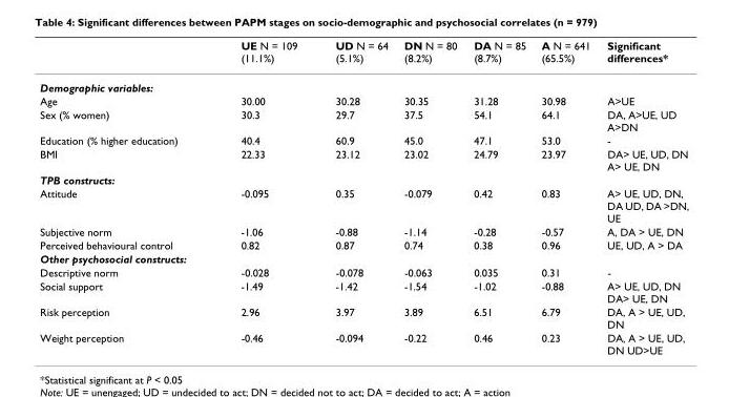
<table><thead><tr><td></td><td>UE N = 109 (11.1%)</td><td>UD N = 64 (5.1%)</td><td>DN N = 80 (8.2%)</td><td>DA N = 85 (8.7%)</td><td>A N = 641 (65.5%)</td><td>Significant differences*</td></tr></thead><tbody><tr><td colspan="7">Demographic variables:</td></tr><tr><td>Age</td><td>30.00</td><td>30.28</td><td>30.35</td><td>31.28</td><td>30.98</td><td>A&gt;UE</td></tr><tr><td>Sex (% women)</td><td>30.3</td><td>29.7</td><td>37.5</td><td>54.1</td><td>64.1</td><td>DA, A&gt;UE, UD A&gt;DN</td></tr><tr><td>Education (% higher education)</td><td>40.4</td><td>60.9</td><td>45.0</td><td>47.1</td><td>53.0</td><td>-</td></tr><tr><td>BMI</td><td>22.33</td><td>23.12</td><td>23.02</td><td>24.79</td><td>23.97</td><td>DA&gt; UE, UD, DN A&gt; UE, DN</td></tr><tr><td colspan="7">TPB constructs:</td></tr><tr><td>Attitude</td><td>-0.095</td><td>0.35</td><td>-0.079</td><td>0.42</td><td>0.83</td><td>A&gt; UE, UD, DN, DA UD, DA &gt;DN, UE</td></tr><tr><td>Subjective norm</td><td>-1.06</td><td>-0.88</td><td>-1.14</td><td>-0.28</td><td>-0.57</td><td>A, DA &gt; UE, DN</td></tr><tr><td>Perceived behavioural control</td><td>0.82</td><td>0.87</td><td>0.74</td><td>0.38</td><td>0.96</td><td>UE, UD, A &gt; DA</td></tr><tr><td colspan="7">Other psychosocial constructs:</td></tr><tr><td>Descriptive norm</td><td>-0.028</td><td>-0.078</td><td>-0.063</td><td>0.035</td><td>0.31</td><td>-</td></tr><tr><td>Social support</td><td>-1.49</td><td>-1.42</td><td>-1.54</td><td>-1.02</td><td>-0.88</td><td>A&gt; UE, UD, DN DA&gt; UE, DN</td></tr><tr><td>Risk perception</td><td>2.96</td><td>3.97</td><td>3.89</td><td>6.51</td><td>6.79</td><td>DA, A &gt; UE, UD, DN</td></tr><tr><td>Weight perception</td><td>-0.46</td><td>-0.094</td><td>-0.22</td><td>0.46</td><td>0.23</td><td>DA, A &gt; UE, UD, DN UD&gt;UE</td></tr></tbody></table>